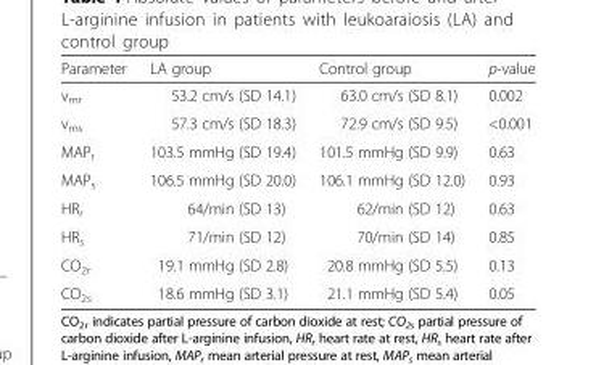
<table><thead><tr><td>Parameter</td><td>LA group</td><td>Control group</td><td>p-value</td></tr></thead><tbody><tr><td>v<sub>mr</sub></td><td>53.2 cm/s (SD 14.1)</td><td>63.0 cm/s (SD 8.1)</td><td>0.002</td></tr><tr><td>v<sub>ms</sub></td><td>57.3 cm/s (SD 18.3)</td><td>72.9 cm/s (SD 9.5)</td><td>&lt;0.001</td></tr><tr><td>MAP<sub>r</sub></td><td>103.5 mmHg (SD 19.4)</td><td>101.5 mmHg (SD 9.9)</td><td>0.63</td></tr><tr><td>MAP<sub>s</sub></td><td>106.5 mmHg (SD 20.0)</td><td>106.1 mmHg (SD 12.0)</td><td>0.93</td></tr><tr><td>HR<sub>r</sub></td><td>64/min (SD 13)</td><td>62/min (SD 12)</td><td>0.63</td></tr><tr><td>HR<sub>s</sub></td><td>71/min (SD 12)</td><td>70/min (SD 14)</td><td>0.85</td></tr><tr><td>CO<sub>2r</sub></td><td>19.1 mmHg (SD 2.8)</td><td>20.8 mmHg (SD 5.5)</td><td>0.13</td></tr><tr><td>CO<sub>2s</sub></td><td>18.6 mmHg (SD 3.1)</td><td>21.1 mmHg (SD 5.4)</td><td>0.05</td></tr></tbody></table>